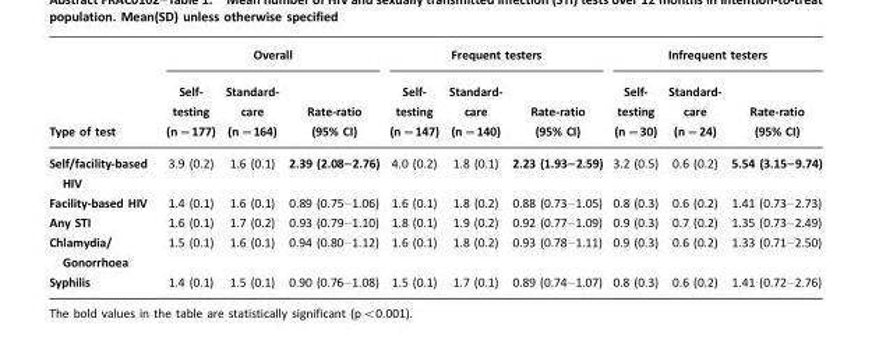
<table><thead><tr><td rowspan="2">Type of test</td><td colspan="3">Overall</td><td colspan="3">Frequent testers</td><td colspan="3">Infrequent testers</td></tr><tr><td>Self- testing (n=177)</td><td>Standard- care (n=164)</td><td>Rate-ratio (95% CI)</td><td>Self- testing (n=147)</td><td>Standard- care (n=140)</td><td>Rate-ratio (95% CI)</td><td>Self- testing (n=30)</td><td>Standard- care (n=24)</td><td>Rate-ratio (95% CI)</td></tr></thead><tbody><tr><td>Self/facility-based HIV</td><td>3.9 (0.2)</td><td>1.6 (0.1)</td><td>2.39 (2.08–2.76)</td><td>4.0 (0.2)</td><td>1.8 (0.1)</td><td>2.23 (1.93–2.59)</td><td>3.2 (0.5)</td><td>0.6 (0.2)</td><td>5.54 (3.15–9.74)</td></tr><tr><td>Facility-based HIV</td><td>1.4 (0.1)</td><td>1.6 (0.1)</td><td>0.89 (0.75–1.06)</td><td>1.6 (0.1)</td><td>1.8 (0.2)</td><td>0.88 (0.73–1.05)</td><td>0.8 (0.3)</td><td>0.6 (0.2)</td><td>1.41 (0.73–2.73)</td></tr><tr><td>Any STI</td><td>1.6 (0.1)</td><td>1.7 (0.2)</td><td>0.93 (0.79–1.10)</td><td>1.8 (0.1)</td><td>1.9 (0.2)</td><td>0.92 (0.77–1.09)</td><td>0.9 (0.3)</td><td>0.7 (0.2)</td><td>1.35 (0.73–2.49)</td></tr><tr><td>Chlamydia/ Gonorrhoea</td><td>1.5 (0.1)</td><td>1.6 (0.1)</td><td>0.94 (0.80–1.12)</td><td>1.6 (0.1)</td><td>1.8 (0.2)</td><td>0.93 (0.78–1.11)</td><td>0.9 (0.3)</td><td>0.6 (0.2)</td><td>1.33 (0.71–2.50)</td></tr><tr><td>Syphilis</td><td>1.4 (0.1)</td><td>1.5 (0.1)</td><td>0.90 (0.76–1.08)</td><td>1.5 (0.1)</td><td>1.7 (0.1)</td><td>0.89 (0.74–1.07)</td><td>0.8 (0.3)</td><td>0.6 (0.2)</td><td>1.41 (0.72–2.76)</td></tr></tbody></table>